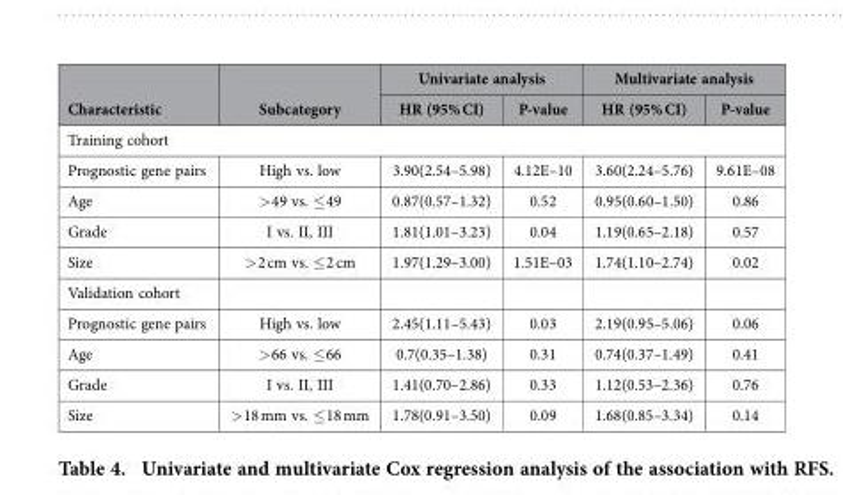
<table><thead><tr><td rowspan="2">Characteristic</td><td rowspan="2">Subcategory</td><td colspan="2">Univariate analysis</td><td colspan="2">Multivariate analysis</td></tr><tr><td>HR (95% CI)</td><td>P-value</td><td>HR (95% CI)</td><td>P-value</td></tr></thead><tbody><tr><td colspan="6">Training cohort</td></tr><tr><td>Prognostic gene pairs</td><td>High vs. low</td><td>3.90(2.54–5.98)</td><td>4.12E–10</td><td>3.60(2.24–5.76)</td><td>9.61E–08</td></tr><tr><td>Age</td><td>&gt; 49 vs. ≤ 49</td><td>0.87(0.57–1.32)</td><td>0.52</td><td>0.95(0.60–1.50)</td><td>0.86</td></tr><tr><td>Grade</td><td>I vs. II, III</td><td>1.81(1.01–3.23)</td><td>0.04</td><td>1.19(0.65–2.18)</td><td>0.57</td></tr><tr><td>Size</td><td>&gt; 2 cm vs. ≤ 2 cm</td><td>1.97(1.29–3.00)</td><td>1.51E–03</td><td>1.74(1.10–2.74)</td><td>0.02</td></tr><tr><td colspan="6">Validation cohort</td></tr><tr><td>Prognostic gene pairs</td><td>High vs. low</td><td>2.45(1.11–5.43)</td><td>0.03</td><td>2.19(0.95–5.06)</td><td>0.06</td></tr><tr><td>Age</td><td>&gt; 66 vs. ≤ 66</td><td>0.7(0.35–1.38)</td><td>0.31</td><td>0.74(0.37–1.49)</td><td>0.41</td></tr><tr><td>Grade</td><td>I vs. II, III</td><td>1.41(0.70–2.86)</td><td>0.33</td><td>1.12(0.53–2.36)</td><td>0.76</td></tr><tr><td>Size</td><td>&gt; 18 mm vs. ≤ 18 mm</td><td>1.78(0.91–3.50)</td><td>0.09</td><td>1.68(0.85–3.34)</td><td>0.14</td></tr></tbody></table>